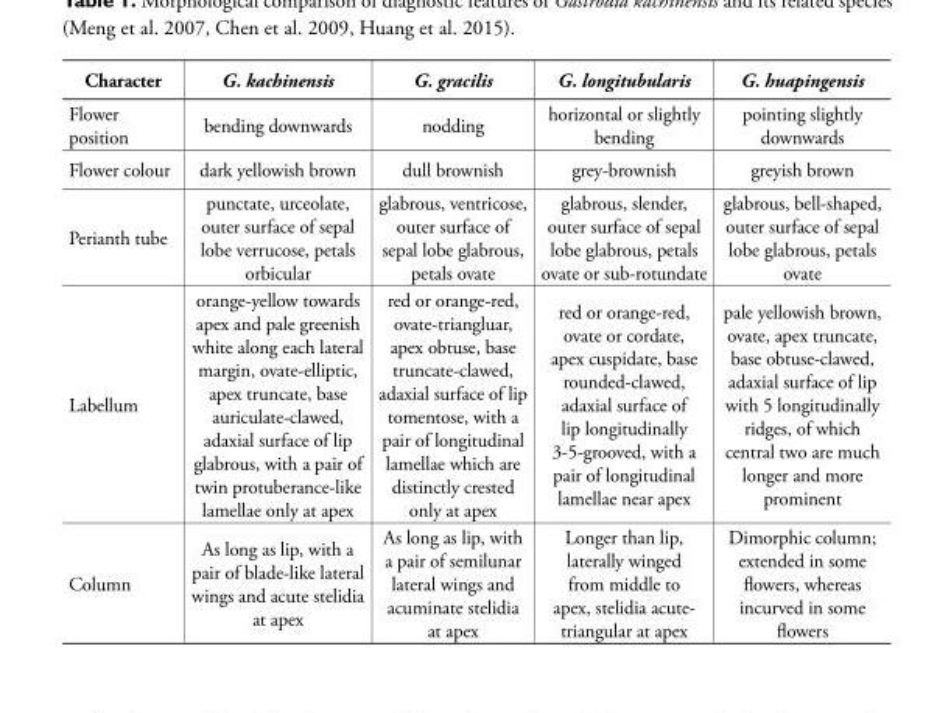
<table><thead><tr><td>Character</td><td>G. kachinensis</td><td>G. gracilis</td><td>G. longitubularis</td><td>G. huapingensis</td></tr></thead><tbody><tr><td>Flower position</td><td>bending downwards</td><td>nodding</td><td>horizontal or slightly bending</td><td>pointing slightly downwards</td></tr><tr><td>Flower colour</td><td>dark yellowish brown</td><td>dull brownish</td><td>grey-brownish</td><td>greyish brown</td></tr><tr><td>Perianth tube</td><td>punctate, urceolate, outer surface of sepal lobe verrucose, petals orbicular</td><td>glabrous, ventricose, outer surface of sepal lobe glabrous, petals ovate</td><td>glabrous, slender, outer surface of sepal lobe glabrous, petals ovate or sub-rotundate</td><td>glabrous, bell-shaped, outer surface of sepal lobe glabrous, petals ovate</td></tr><tr><td>Labellum</td><td>orange-yellow towards apex and pale greenish white along each lateral margin, ovate-elliptic, apex truncate, base auriculate-clawed, adaxial surface of lip glabrous, with a pair of twin protuberance-like lamellae only at apex</td><td>red or orange-red, ovate-triangluar, apex obtuse, base truncate-clawed, adaxial surface of lip tomentose, with a pair of longitudinal lamellae which are distinctly crested only at apex</td><td>red or orange-red, ovate or cordate, apex cuspidate, base rounded-clawed, adaxial surface of lip longitudinally 3-5-grooved, with a pair of longitudinal lamellae near apex</td><td>pale yellowish brown, ovate, apex truncate, base obtuse-clawed, adaxial surface of lip with 5 longitudinally ridges, of which central two are much longer and more prominent</td></tr><tr><td>Column</td><td>As long as lip, with a pair of blade-like lateral wings and acute stelidia at apex</td><td>As long as lip, with a pair of semilunar lateral wings and acuminate stelidia at apex</td><td>Longer than lip, laterally winged from middle to apex, stelidia acute- triangular at apex</td><td>Dimorphic column; extended in some flowers, whereas incurved in some flowers</td></tr></tbody></table>